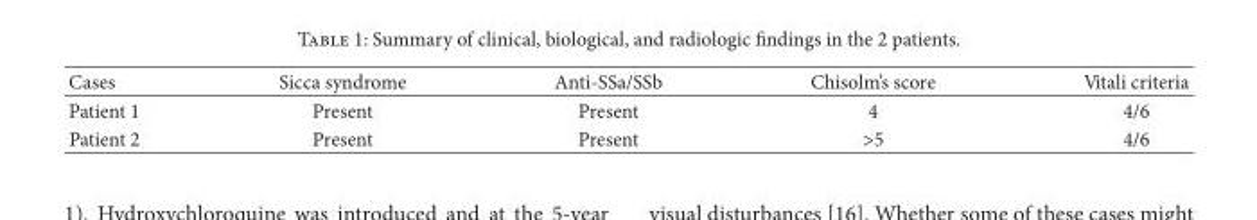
<table><thead><tr><td>Cases</td><td>Sicca syndrome</td><td>Anti-SSa/SSb</td><td>Chisolm’s score</td><td>Vitali criteria</td></tr></thead><tbody><tr><td>Patient 1</td><td>Present</td><td>Present</td><td>4</td><td>4/6</td></tr><tr><td>Patient 2</td><td>Present</td><td>Present</td><td>&gt;5</td><td>4/6</td></tr></tbody></table>